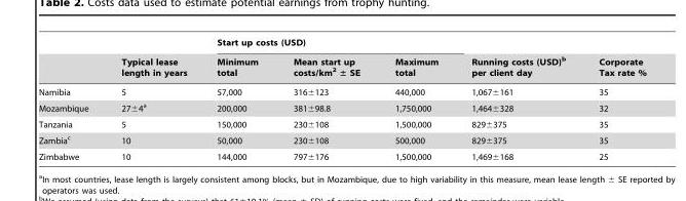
<table><thead><tr><td rowspan="2"></td><td rowspan="2">Typical lease length in years</td><td colspan="3">Start up costs (USD)</td><td rowspan="2">Running costs (USD)<sup>b</sup> per client day</td><td rowspan="2">Corporate Tax rate %</td></tr><tr><td>Minimum total</td><td>Mean start up costs/km<sup>2</sup> ± SE</td><td>Maximum total</td></tr></thead><tbody><tr><td>Namibia</td><td>5</td><td>57,000</td><td>316±123</td><td>440,000</td><td>1,067±161</td><td>35</td></tr><tr><td>Mozambique</td><td>27±4<sup>a</sup></td><td>200,000</td><td>381±98.8</td><td>1,750,000</td><td>1,464±328</td><td>32</td></tr><tr><td>Tanzania</td><td>5</td><td>150,000</td><td>230±108</td><td>1,500,000</td><td>829±375</td><td>35</td></tr><tr><td>Zambia<sup>c</sup></td><td>10</td><td>50,000</td><td>230±108</td><td>500,000</td><td>829±375</td><td>35</td></tr><tr><td>Zimbabwe</td><td>10</td><td>144,000</td><td>797±176</td><td>1,500,000</td><td>1,469±168</td><td>25</td></tr></tbody></table>